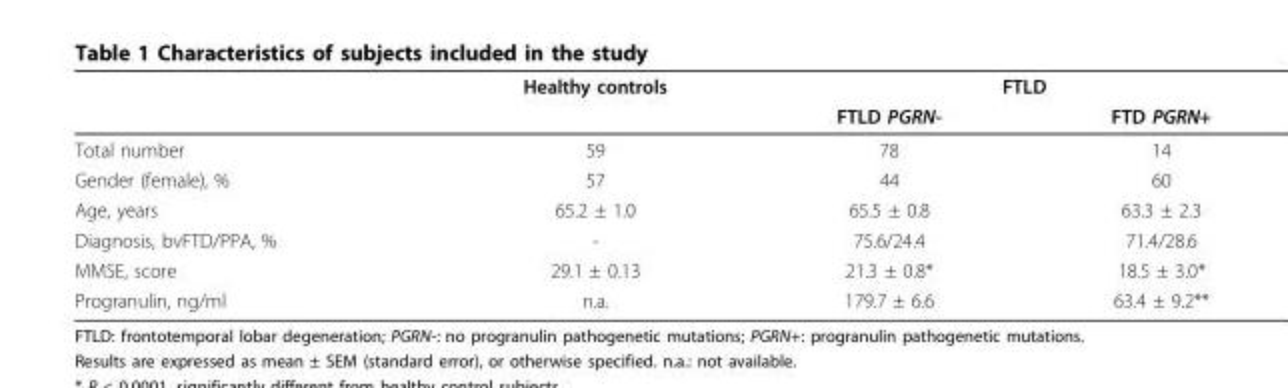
<table><thead><tr><td rowspan="2"></td><td rowspan="2">Healthy controls</td><td colspan="2">FTLD</td></tr><tr><td>FTLD PGRN-</td><td>FTD PGRN+</td></tr></thead><tbody><tr><td>Total number</td><td>59</td><td>78</td><td>14</td></tr><tr><td>Gender (female), %</td><td>57</td><td>44</td><td>60</td></tr><tr><td>Age, years</td><td>65.2 ± 1.0</td><td>65.5 ± 0.8</td><td>63.3 ± 2.3</td></tr><tr><td>Diagnosis, bvFTD/PPA, %</td><td>-</td><td>75.6/24.4</td><td>71.4/28.6</td></tr><tr><td>MMSE, score</td><td>29.1 ± 0.13</td><td>21.3 ± 0.8*</td><td>18.5 ± 3.0*</td></tr><tr><td>Progranulin, ng/ml</td><td>n.a.</td><td>179.7 ± 6.6</td><td>63.4 ± 9.2**</td></tr></tbody></table>